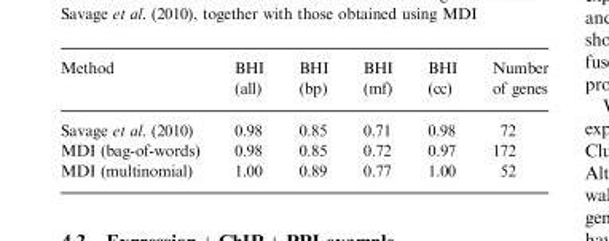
<table><thead><tr><td>Method</td><td>BHI (all)</td><td>BHI (bp)</td><td>BHI (mf)</td><td>BHI (cc)</td><td>Number of genes</td></tr></thead><tbody><tr><td>Savage et al. (2010)</td><td>0.98</td><td>0.85</td><td>0.71</td><td>0.98</td><td>72</td></tr><tr><td>MDI (bag-of-words)</td><td>0.98</td><td>0.85</td><td>0.72</td><td>0.97</td><td>172</td></tr><tr><td>MDI (multinomial)</td><td>1.00</td><td>0.89</td><td>0.77</td><td>1.00</td><td>52</td></tr></tbody></table>